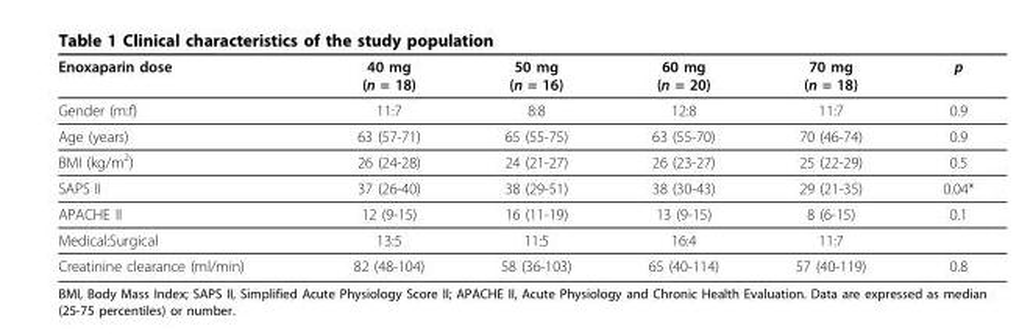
<table><thead><tr><td>Enoxaparin dose</td><td>40 mg (n = 18)</td><td>50 mg (n = 16)</td><td>60 mg (n = 20)</td><td>70 mg (n = 18)</td><td>p</td></tr></thead><tbody><tr><td>Gender (m:f)</td><td>11:7</td><td>8:8</td><td>12:8</td><td>11:7</td><td>0.9</td></tr><tr><td>Age (years)</td><td>63 (57-71)</td><td>65 (55-75)</td><td>63 (55-70)</td><td>70 (46-74)</td><td>0.9</td></tr><tr><td>BMI (kg/m<sup>2</sup>)</td><td>26 (24-28)</td><td>24 (21-27)</td><td>26 (23-27)</td><td>25 (22-29)</td><td>0.5</td></tr><tr><td>SAPS II</td><td>37 (26-40)</td><td>38 (29-51)</td><td>38 (30-43)</td><td>29 (21-35)</td><td>0.04*</td></tr><tr><td>APACHE II</td><td>12 (9-15)</td><td>16 (11-19)</td><td>13 (9-15)</td><td>8 (6-15)</td><td>0.1</td></tr><tr><td>Medical:Surgical</td><td>13:5</td><td>11:5</td><td>16:4</td><td>11:7</td><td></td></tr><tr><td>Creatinine clearance (ml/min)</td><td>82 (48-104)</td><td>58 (36-103)</td><td>65 (40-114)</td><td>57 (40-119)</td><td>0.8</td></tr></tbody></table>